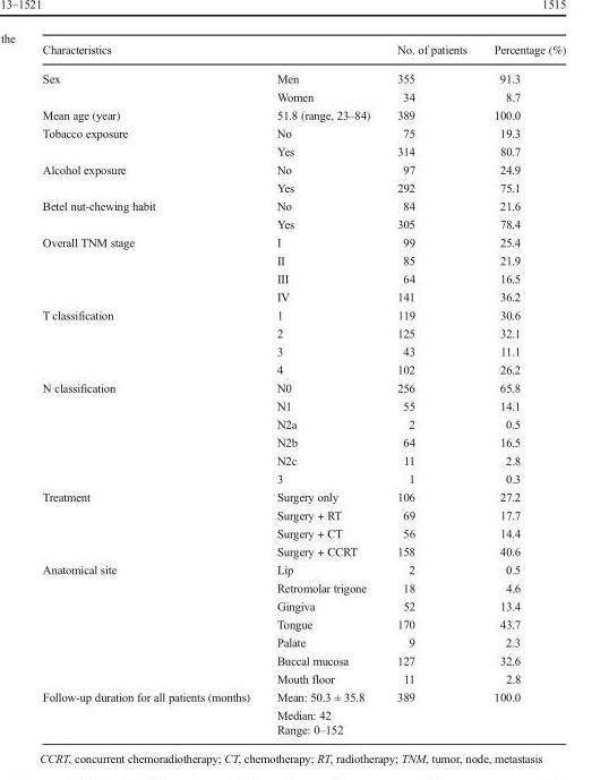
<table><thead><tr><td>Characteristics</td><td></td><td>No. of patients</td><td>Percentage (%)</td></tr></thead><tbody><tr><td rowspan="2">Sex</td><td>Men</td><td>355</td><td>91.3</td></tr><tr><td>Women</td><td>34</td><td>8.7</td></tr><tr><td>Mean age (year)</td><td>51.8 (range, 23–84)</td><td>389</td><td>100.0</td></tr><tr><td rowspan="2">Tobacco exposure</td><td>No</td><td>75</td><td>19.3</td></tr><tr><td>Yes</td><td>314</td><td>80.7</td></tr><tr><td rowspan="2">Alcohol exposure</td><td>No</td><td>97</td><td>24.9</td></tr><tr><td>Yes</td><td>292</td><td>75.1</td></tr><tr><td rowspan="2">Betel nut-chewing habit</td><td>No</td><td>84</td><td>21.6</td></tr><tr><td>Yes</td><td>305</td><td>78.4</td></tr><tr><td rowspan="4">Overall TNM stage</td><td>I</td><td>99</td><td>25.4</td></tr><tr><td>II</td><td>85</td><td>21.9</td></tr><tr><td>III</td><td>64</td><td>16.5</td></tr><tr><td>IV</td><td>141</td><td>36.2</td></tr><tr><td rowspan="4">T classification</td><td>1</td><td>119</td><td>30.6</td></tr><tr><td>2</td><td>125</td><td>32.1</td></tr><tr><td>3</td><td>43</td><td>11.1</td></tr><tr><td>4</td><td>102</td><td>26.2</td></tr><tr><td rowspan="6">N classification</td><td>N0</td><td>256</td><td>65.8</td></tr><tr><td>N1</td><td>55</td><td>14.1</td></tr><tr><td>N2a</td><td>2</td><td>0.5</td></tr><tr><td>N2b</td><td>64</td><td>16.5</td></tr><tr><td>N2c</td><td>11</td><td>2.8</td></tr><tr><td>3</td><td>1</td><td>0.3</td></tr><tr><td rowspan="4">Treatment</td><td>Surgery only</td><td>106</td><td>27.2</td></tr><tr><td>Surgery + RT</td><td>69</td><td>17.7</td></tr><tr><td>Surgery + CT</td><td>56</td><td>14.4</td></tr><tr><td>Surgery + CCRT</td><td>158</td><td>40.6</td></tr><tr><td rowspan="7">Anatomical site</td><td>Lip</td><td>2</td><td>0.5</td></tr><tr><td>Retromolar trigone</td><td>18</td><td>4.6</td></tr><tr><td>Gingiva</td><td>52</td><td>13.4</td></tr><tr><td>Tongue</td><td>170</td><td>43.7</td></tr><tr><td>Palate</td><td>9</td><td>2.3</td></tr><tr><td>Buccal mucosa</td><td>127</td><td>32.6</td></tr><tr><td>Mouth floor</td><td>11</td><td>2.8</td></tr><tr><td rowspan="3">Follow-up duration for all patients (months)</td><td>Mean: 50.3 ± 35.8</td><td>389</td><td>100.0</td></tr><tr><td>Median: 42</td><td rowspan="2"></td><td rowspan="2"></td></tr><tr><td>Range: 0–152</td></tr></tbody></table>